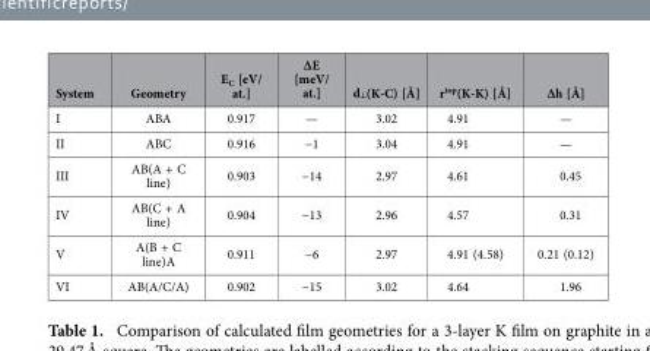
<table><thead><tr><td>System</td><td>Geometry</td><td>E<sub>C</sub> [eV/ at.]</td><td>∆E [meV/ at.]</td><td>d<sub>┴</sub>(K-C) [Å]</td><td>r<sup>top</sup>(K-K) [Å]</td><td>∆h [Å]</td></tr></thead><tbody><tr><td>I</td><td>ABA</td><td>0.917</td><td>—</td><td>3.02</td><td>4.91</td><td>—</td></tr><tr><td>II</td><td>ABC</td><td>0.916</td><td>−1</td><td>3.04</td><td>4.91</td><td>—</td></tr><tr><td>III</td><td>AB(A + C line)</td><td>0.903</td><td>−14</td><td>2.97</td><td>4.61</td><td>0.45</td></tr><tr><td>IV</td><td>AB(C + A line)</td><td>0.904</td><td>−13</td><td>2.96</td><td>4.57</td><td>0.31</td></tr><tr><td>V</td><td>A(B + C line)A</td><td>0.911</td><td>−6</td><td>2.97</td><td>4.91 (4.58)</td><td>0.21 (0.12)</td></tr><tr><td>VI</td><td>AB(A/C/A)</td><td>0.902</td><td>−15</td><td>3.02</td><td>4.64</td><td>1.96</td></tr></tbody></table>